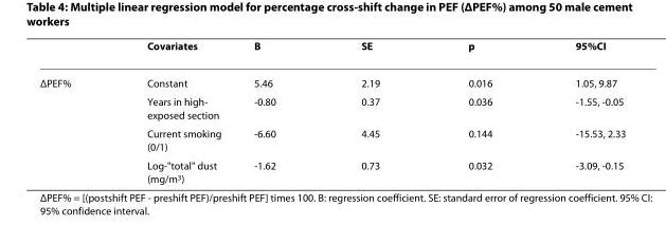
<table><thead><tr><td></td><td>Covariates</td><td>B</td><td>SE</td><td>p</td><td>95%CI</td></tr></thead><tbody><tr><td rowspan="4">ΔPEF%</td><td>Constant</td><td>5.46</td><td>2.19</td><td>0.016</td><td>1.05, 9.87</td></tr><tr><td>Years in high- exposed section</td><td>-0.80</td><td>0.37</td><td>0.036</td><td>-1.55, -0.05</td></tr><tr><td>Current smoking (0/1)</td><td>-6.60</td><td>4.45</td><td>0.144</td><td>-15.53, 2.33</td></tr><tr><td>Log-&quot;total&quot; dust (mg/m<sup>3</sup>)</td><td>-1.62</td><td>0.73</td><td>0.032</td><td>-3.09, -0.15</td></tr></tbody></table>